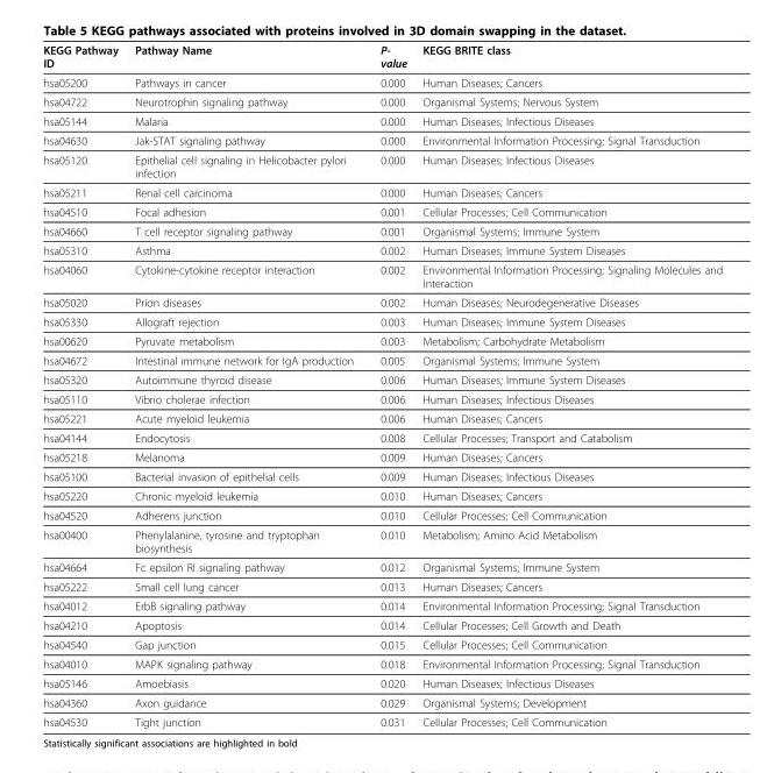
<table><thead><tr><td>KEGG Pathway ID</td><td>Pathway Name</td><td>P- value</td><td>KEGG BRITE class</td></tr></thead><tbody><tr><td>hsa05200</td><td>Pathways in cancer</td><td>0.000</td><td>Human Diseases; Cancers</td></tr><tr><td>hsa04722</td><td>Neurotrophin signaling pathway</td><td>0.000</td><td>Organismal Systems; Nervous System</td></tr><tr><td>hsa05144</td><td>Malaria</td><td>0.000</td><td>Human Diseases; Infectious Diseases</td></tr><tr><td>hsa04630</td><td>Jak-STAT signaling pathway</td><td>0.000</td><td>Environmental Information Processing; Signal Transduction</td></tr><tr><td>hsa05120</td><td>Epithelial cell signaling in Helicobacter pylori infection</td><td>0.000</td><td>Human Diseases; Infectious Diseases</td></tr><tr><td>hsa05211</td><td>Renal cell carcinoma</td><td>0.000</td><td>Human Diseases; Cancers</td></tr><tr><td>hsa04510</td><td>Focal adhesion</td><td>0.001</td><td>Cellular Processes; Cell Communication</td></tr><tr><td>hsa04660</td><td>T cell receptor signaling pathway</td><td>0.001</td><td>Organismal Systems; Immune System</td></tr><tr><td>hsa05310</td><td>Asthma</td><td>0.002</td><td>Human Diseases; Immune System Diseases</td></tr><tr><td>hsa04060</td><td>Cytokine-cytokine receptor interaction</td><td>0.002</td><td>Environmental Information Processing; Signaling Molecules and Interaction</td></tr><tr><td>hsa05020</td><td>Prion diseases</td><td>0.002</td><td>Human Diseases; Neurodegenerative Diseases</td></tr><tr><td>hsa05330</td><td>Allograft rejection</td><td>0.003</td><td>Human Diseases; Immune System Diseases</td></tr><tr><td>hsa00620</td><td>Pyruvate metabolism</td><td>0.003</td><td>Metabolism; Carbohydrate Metabolism</td></tr><tr><td>hsa04672</td><td>Intestinal immune network for IgA production</td><td>0.005</td><td>Organismal Systems; Immune System</td></tr><tr><td>hsa05320</td><td>Autoimmune thyroid disease</td><td>0.006</td><td>Human Diseases; Immune System Diseases</td></tr><tr><td>hsa05110</td><td>Vibrio cholerae infection</td><td>0.006</td><td>Human Diseases; Infectious Diseases</td></tr><tr><td>hsa05221</td><td>Acute myeloid leukemia</td><td>0.006</td><td>Human Diseases; Cancers</td></tr><tr><td>hsa04144</td><td>Endocytosis</td><td>0.008</td><td>Cellular Processes; Transport and Catabolism</td></tr><tr><td>hsa05218</td><td>Melanoma</td><td>0.009</td><td>Human Diseases; Cancers</td></tr><tr><td>hsa05100</td><td>Bacterial invasion of epithelial cells</td><td>0.009</td><td>Human Diseases; Infectious Diseases</td></tr><tr><td>hsa05220</td><td>Chronic myeloid leukemia</td><td>0.010</td><td>Human Diseases; Cancers</td></tr><tr><td>hsa04520</td><td>Adherens junction</td><td>0.010</td><td>Cellular Processes; Cell Communication</td></tr><tr><td>hsa00400</td><td>Phenylalanine, tyrosine and tryptophan biosynthesis</td><td>0.010</td><td>Metabolism; Amino Acid Metabolism</td></tr><tr><td>hsa04664</td><td>Fc epsilon RI signaling pathway</td><td>0.012</td><td>Organismal Systems; Immune System</td></tr><tr><td>hsa05222</td><td>Small cell lung cancer</td><td>0.013</td><td>Human Diseases; Cancers</td></tr><tr><td>hsa04012</td><td>ErbB signaling pathway</td><td>0.014</td><td>Environmental Information Processing; Signal Transduction</td></tr><tr><td>hsa04210</td><td>Apoptosis</td><td>0.014</td><td>Cellular Processes; Cell Growth and Death</td></tr><tr><td>hsa04540</td><td>Gap junction</td><td>0.015</td><td>Cellular Processes; Cell Communication</td></tr><tr><td>hsa04010</td><td>MAPK signaling pathway</td><td>0.018</td><td>Environmental Information Processing; Signal Transduction</td></tr><tr><td>hsa05146</td><td>Amoebiasis</td><td>0.020</td><td>Human Diseases; Infectious Diseases</td></tr><tr><td>hsa04360</td><td>Axon guidance</td><td>0.029</td><td>Organismal Systems; Development</td></tr><tr><td>hsa04530</td><td>Tight junction</td><td>0.031</td><td>Cellular Processes; Cell Communication</td></tr></tbody></table>